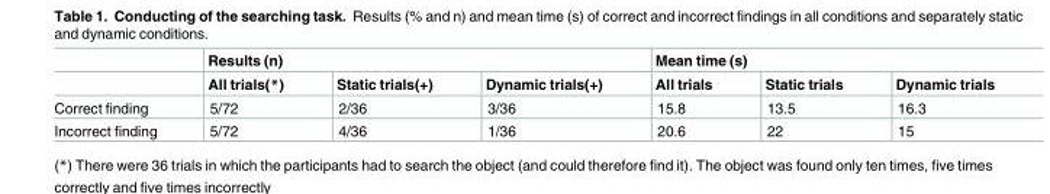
<table><thead><tr><td rowspan="2"></td><td colspan="3">Results (n)</td><td colspan="3">Mean time (s)</td></tr><tr><td>All trials(*)</td><td>Static trials(+)</td><td>Dynamic trials(+)</td><td>All trials</td><td>Static trials</td><td>Dynamic trials</td></tr></thead><tbody><tr><td>Correct finding</td><td>5/72</td><td>2/36</td><td>3/36</td><td>15.8</td><td>13.5</td><td>16.3</td></tr><tr><td>Incorrect finding</td><td>5/72</td><td>4/36</td><td>1/36</td><td>20.6</td><td>22</td><td>15</td></tr></tbody></table>